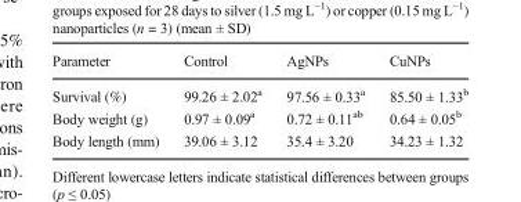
<table><thead><tr><td>Parameter</td><td>Control</td><td>AgNPs</td><td>CuNPs</td></tr></thead><tbody><tr><td>Survival (%)</td><td>99.26 ± 2.02<sup>a</sup></td><td>97.56 ± 0.33<sup>a</sup></td><td>85.50 ± 1.33<sup>b</sup></td></tr><tr><td>Body weight (g)</td><td>0.97 ± 0.09<sup>a</sup></td><td>0.72 ± 0.11<sup>ab</sup></td><td>0.64 ± 0.05<sup>b</sup></td></tr><tr><td>Body length (mm)</td><td>39.06 ± 3.12</td><td>35.4 ± 3.20</td><td>34.23 ± 1.32</td></tr></tbody></table>